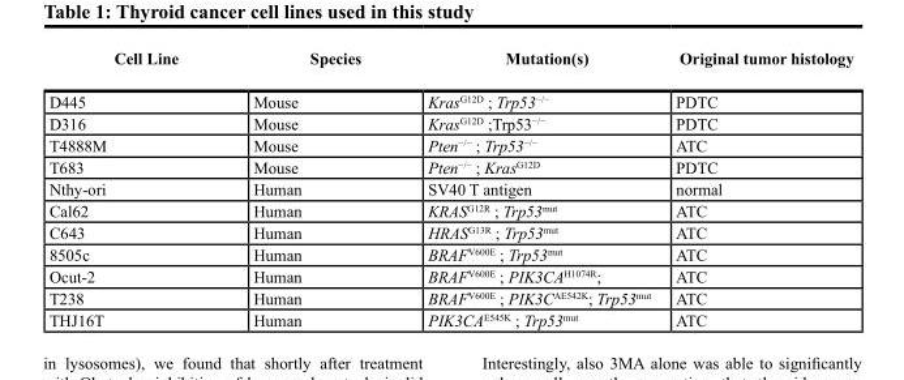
<table><thead><tr><td>cell Line</td><td>species</td><td>Mutation(s)</td><td>original tumor histology</td></tr></thead><tbody><tr><td>D445</td><td>Mouse</td><td>Kras<sup>G12D</sup> ; Trp53<sup>−/−</sup></td><td>PDTC</td></tr><tr><td>D316</td><td>Mouse</td><td>Kras<sup>G12D</sup> ;Trp53<sup>−/−</sup></td><td>PDTC</td></tr><tr><td>T4888M</td><td>Mouse</td><td>Pten<sup>−/−</sup> ; Trp53<sup>−/−</sup></td><td>ATC</td></tr><tr><td>T683</td><td>Mouse</td><td>Pten−/− ; Kras<sup>G12D</sup></td><td>PDTC</td></tr><tr><td>Nthy-ori</td><td>Human</td><td>SV40 T antigen</td><td>normal</td></tr><tr><td>Cal62</td><td>Human</td><td>KRAS<sup>G12R</sup> ; Trp53<sup>mut</sup></td><td>ATC</td></tr><tr><td>C643</td><td>Human</td><td>HRAS<sup>G13R</sup> ; Trp53<sup>mut</sup></td><td>ATC</td></tr><tr><td>8505c</td><td>Human</td><td>BRAF<sup>V600E</sup> ; Trp53<sup>mut</sup></td><td>ATC</td></tr><tr><td>Ocut-2</td><td>Human</td><td>BRAF<sup>V600E</sup> ; PIK3CA<sup>H1074R</sup>;</td><td>ATC</td></tr><tr><td>T238</td><td>Human</td><td>BRAF<sup>V600E</sup> ; PIK3C<sup>AE542K</sup>; Trp53<sup>mut</sup></td><td>ATC</td></tr><tr><td>THJ16T</td><td>Human</td><td>PIK3CA<sup>E545K</sup> ; Trp53<sup>mut</sup></td><td>ATC</td></tr></tbody></table>